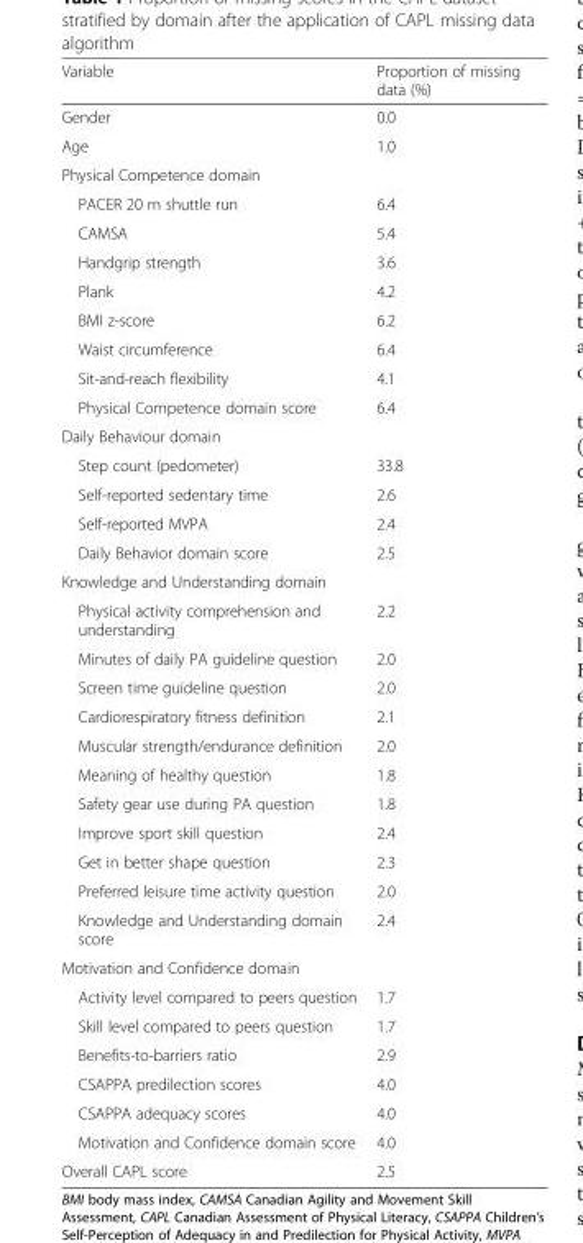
<table><thead><tr><td>Variable</td><td>Proportion of missing data (%)</td></tr></thead><tbody><tr><td>Gender</td><td>0.0</td></tr><tr><td>Age</td><td>1.0</td></tr><tr><td colspan="2">Physical Competence domain</td></tr><tr><td>PACER 20 m shuttle run</td><td>6.4</td></tr><tr><td>CAMSA</td><td>5.4</td></tr><tr><td>Handgrip strength</td><td>3.6</td></tr><tr><td>Plank</td><td>4.2</td></tr><tr><td>BMI z-score</td><td>6.2</td></tr><tr><td>Waist circumference</td><td>6.4</td></tr><tr><td>Sit-and-reach flexibility</td><td>4.1</td></tr><tr><td>Physical Competence domain score</td><td>6.4</td></tr><tr><td colspan="2">Daily Behaviour domain</td></tr><tr><td>Step count (pedometer)</td><td>33.8</td></tr><tr><td>Self-reported sedentary time</td><td>2.6</td></tr><tr><td>Self-reported MVPA</td><td>2.4</td></tr><tr><td>Daily Behavior domain score</td><td>2.5</td></tr><tr><td colspan="2">Knowledge and Understanding domain</td></tr><tr><td>Physical activity comprehension and understanding</td><td>2.2</td></tr><tr><td>Minutes of daily PA guideline question</td><td>2.0</td></tr><tr><td>Screen time guideline question</td><td>2.0</td></tr><tr><td>Cardiorespiratory fitness definition</td><td>2.1</td></tr><tr><td>Muscular strength/endurance definition</td><td>2.0</td></tr><tr><td>Meaning of healthy question</td><td>1.8</td></tr><tr><td>Safety gear use during PA question</td><td>1.8</td></tr><tr><td>Improve sport skill question</td><td>2.4</td></tr><tr><td>Get in better shape question</td><td>2.3</td></tr><tr><td>Preferred leisure time activity question</td><td>2.0</td></tr><tr><td>Knowledge and Understanding domain score</td><td>2.4</td></tr><tr><td colspan="2">Motivation and Confidence domain</td></tr><tr><td>Activity level compared to peers question</td><td>1.7</td></tr><tr><td>Skill level compared to peers question</td><td>1.7</td></tr><tr><td>Benefits-to-barriers ratio</td><td>2.9</td></tr><tr><td>CSAPPA predilection scores</td><td>4.0</td></tr><tr><td>CSAPPA adequacy scores</td><td>4.0</td></tr><tr><td>Motivation and Confidence domain score</td><td>4.0</td></tr><tr><td>Overall CAPL score</td><td>2.5</td></tr></tbody></table>